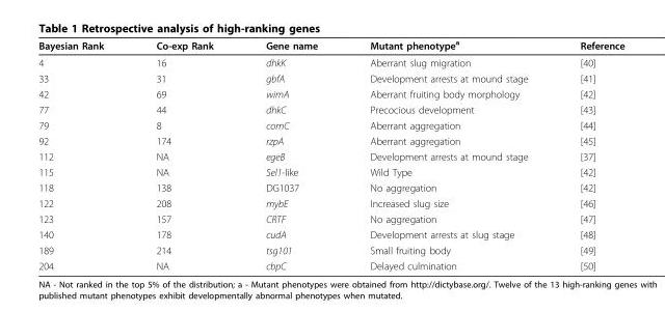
<table><thead><tr><td>Bayesian Rank</td><td>Co-exp Rank</td><td>Gene name</td><td>Mutant phenotype<sup>a</sup></td><td>Reference</td></tr></thead><tbody><tr><td>4</td><td>16</td><td>dhkK</td><td>Aberrant slug migration</td><td>[40]</td></tr><tr><td>33</td><td>31</td><td>gbfA</td><td>Development arrests at mound stage</td><td>[41]</td></tr><tr><td>42</td><td>69</td><td>wimA</td><td>Aberrant fruiting body morphology</td><td>[42]</td></tr><tr><td>77</td><td>44</td><td>dhkC</td><td>Precocious development</td><td>[43]</td></tr><tr><td>79</td><td>8</td><td>comC</td><td>Aberrant aggregation</td><td>[44]</td></tr><tr><td>92</td><td>174</td><td>rzpA</td><td>Aberrant aggregation</td><td>[45]</td></tr><tr><td>112</td><td>NA</td><td>egeB</td><td>Development arrests at mound stage</td><td>[37]</td></tr><tr><td>115</td><td>NA</td><td>Sel1-like</td><td>Wild Type</td><td>[42]</td></tr><tr><td>118</td><td>138</td><td>DG1037</td><td>No aggregation</td><td>[42]</td></tr><tr><td>122</td><td>208</td><td>mybE</td><td>Increased slug size</td><td>[46]</td></tr><tr><td>123</td><td>157</td><td>CRTF</td><td>No aggregation</td><td>[47]</td></tr><tr><td>140</td><td>178</td><td>cudA</td><td>Development arrests at slug stage</td><td>[48]</td></tr><tr><td>189</td><td>214</td><td>tsg101</td><td>Small fruiting body</td><td>[49]</td></tr><tr><td>204</td><td>NA</td><td>cbpC</td><td>Delayed culmination</td><td>[50]</td></tr></tbody></table>